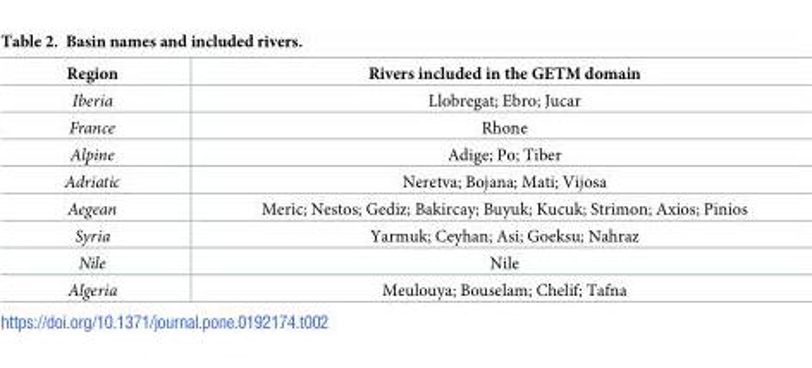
<table><thead><tr><td>Region</td><td>Rivers included in the GETM domain</td></tr></thead><tbody><tr><td>Iberia</td><td>Llobregat; Ebro; Jucar</td></tr><tr><td>France</td><td>Rhone</td></tr><tr><td>Alpine</td><td>Adige; Po; Tiber</td></tr><tr><td>Adriatic</td><td>Neretva; Bojana; Mati; Vijosa</td></tr><tr><td>Aegean</td><td>Meric; Nestos; Gediz; Bakircay; Buyuk; Kucuk; Strimon; Axios; Pinios</td></tr><tr><td>Syria</td><td>Yarmuk; Ceyhan; Asi; Goeksu; Nahraz</td></tr><tr><td>Nile</td><td>Nile</td></tr><tr><td>Algeria</td><td>Meulouya; Bouselam; Chelif; Tafna</td></tr></tbody></table>